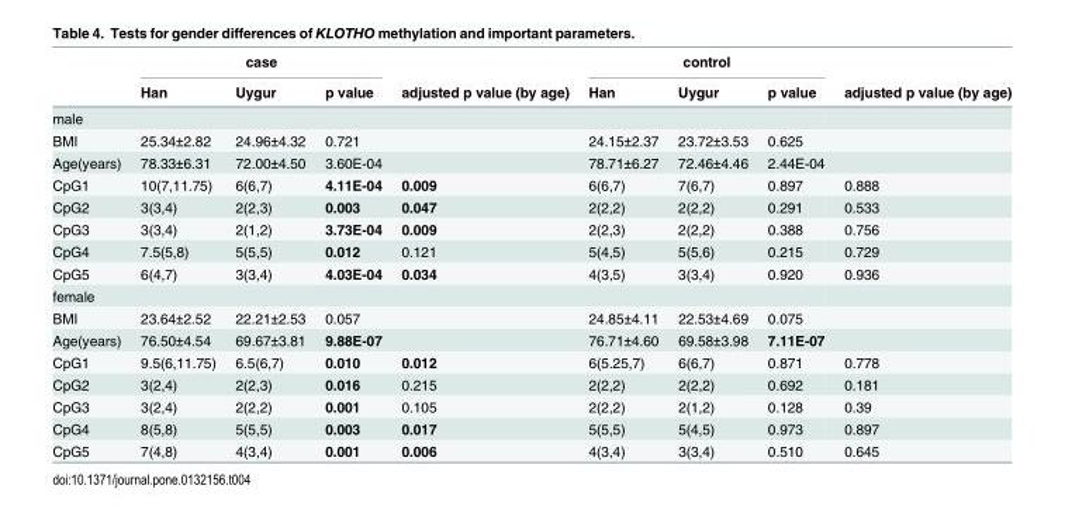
<table><thead><tr><td rowspan="2"></td><td colspan="3">case</td><td rowspan="2">adjusted p value (by age)</td><td colspan="3">control</td><td rowspan="2">adjusted p value (by age)</td></tr><tr><td>Han</td><td>Uygur</td><td>p value</td><td>Han</td><td>Uygur</td><td>p value</td></tr></thead><tbody><tr><td colspan="9">male</td></tr><tr><td>BMI</td><td>25.34±2.82</td><td>24.96±4.32</td><td>0.721</td><td></td><td>24.15±2.37</td><td>23.72±3.53</td><td>0.625</td><td></td></tr><tr><td>Age(years)</td><td>78.33±6.31</td><td>72.00±4.50</td><td>3.60E-04</td><td></td><td>78.71±6.27</td><td>72.46±4.46</td><td>2.44E-04</td><td></td></tr><tr><td>CpG1</td><td>10(7,11.75)</td><td>6(6,7)</td><td>4.11E-04</td><td>0.009</td><td>6(6,7)</td><td>7(6,7)</td><td>0.897</td><td>0.888</td></tr><tr><td>CpG2</td><td>3(3,4)</td><td>2(2,3)</td><td>0.003</td><td>0.047</td><td>2(2,2)</td><td>2(2,2)</td><td>0.291</td><td>0.533</td></tr><tr><td>CpG3</td><td>3(3,4)</td><td>2(1,2)</td><td>3.73E-04</td><td>0.009</td><td>2(2,3)</td><td>2(2,2)</td><td>0.388</td><td>0.756</td></tr><tr><td>CpG4</td><td>7.5(5,8)</td><td>5(5,5)</td><td>0.012</td><td>0.121</td><td>5(4,5)</td><td>5(5,6)</td><td>0.215</td><td>0.729</td></tr><tr><td>CpG5</td><td>6(4,7)</td><td>3(3,4)</td><td>4.03E-04</td><td>0.034</td><td>4(3,5)</td><td>3(3,4)</td><td>0.920</td><td>0.936</td></tr><tr><td colspan="9">female</td></tr><tr><td>BMI</td><td>23.64±2.52</td><td>22.21±2.53</td><td>0.057</td><td></td><td>24.85±4.11</td><td>22.53±4.69</td><td>0.075</td><td></td></tr><tr><td>Age(years)</td><td>76.50±4.54</td><td>69.67±3.81</td><td>9.88E-07</td><td></td><td>76.71±4.60</td><td>69.58±3.98</td><td>7.11E-07</td><td></td></tr><tr><td>CpG1</td><td>9.5(6,11.75)</td><td>6.5(6,7)</td><td>0.010</td><td>0.012</td><td>6(5.25,7)</td><td>6(6,7)</td><td>0.871</td><td>0.778</td></tr><tr><td>CpG2</td><td>3(2,4)</td><td>2(2,3)</td><td>0.016</td><td>0.215</td><td>2(2,2)</td><td>2(2,2)</td><td>0.692</td><td>0.181</td></tr><tr><td>CpG3</td><td>3(2,4)</td><td>2(2,2)</td><td>0.001</td><td>0.105</td><td>2(2,2)</td><td>2(1,2)</td><td>0.128</td><td>0.39</td></tr><tr><td>CpG4</td><td>8(5,8)</td><td>5(5,5)</td><td>0.003</td><td>0.017</td><td>5(5,5)</td><td>5(4,5)</td><td>0.973</td><td>0.897</td></tr><tr><td>CpG5</td><td>7(4,8)</td><td>4(3,4)</td><td>0.001</td><td>0.006</td><td>4(3,4)</td><td>3(3,4)</td><td>0.510</td><td>0.645</td></tr></tbody></table>